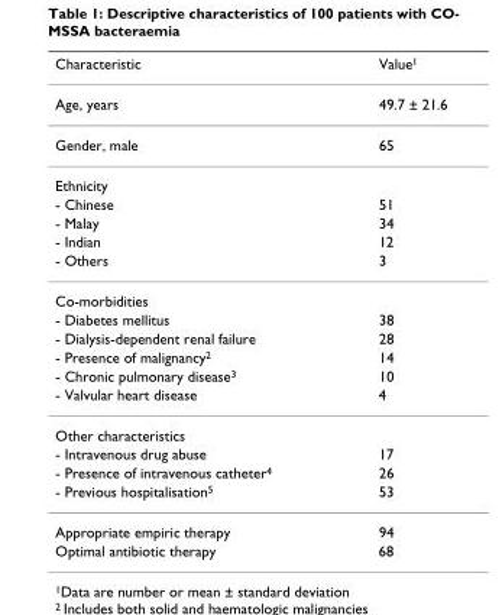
<table><thead><tr><td>Characteristic</td><td>Value<sup>1</sup></td></tr></thead><tbody><tr><td>Age, years</td><td>49.7 ± 21.6</td></tr><tr><td>Gender, male</td><td>65</td></tr><tr><td colspan="2">Ethnicity</td></tr><tr><td>- Chinese</td><td>51</td></tr><tr><td>- Malay</td><td>34</td></tr><tr><td>- Indian</td><td>12</td></tr><tr><td>- Others</td><td>3</td></tr><tr><td colspan="2">Co-morbidities</td></tr><tr><td>- Diabetes mellitus</td><td>38</td></tr><tr><td>- Dialysis-dependent renal failure</td><td>28</td></tr><tr><td>- Presence of malignancy<sup>2</sup></td><td>14</td></tr><tr><td>- Chronic pulmonary disease<sup>3</sup></td><td>10</td></tr><tr><td>- Valvular heart disease</td><td>4</td></tr><tr><td colspan="2">Other characteristics</td></tr><tr><td>- Intravenous drug abuse</td><td>17</td></tr><tr><td>- Presence of intravenous catheter<sup>4</sup></td><td>26</td></tr><tr><td>- Previous hospitalisation<sup>5</sup></td><td>53</td></tr><tr><td>Appropriate empiric therapy</td><td>94</td></tr><tr><td>Optimal antibiotic therapy</td><td>68</td></tr></tbody></table>